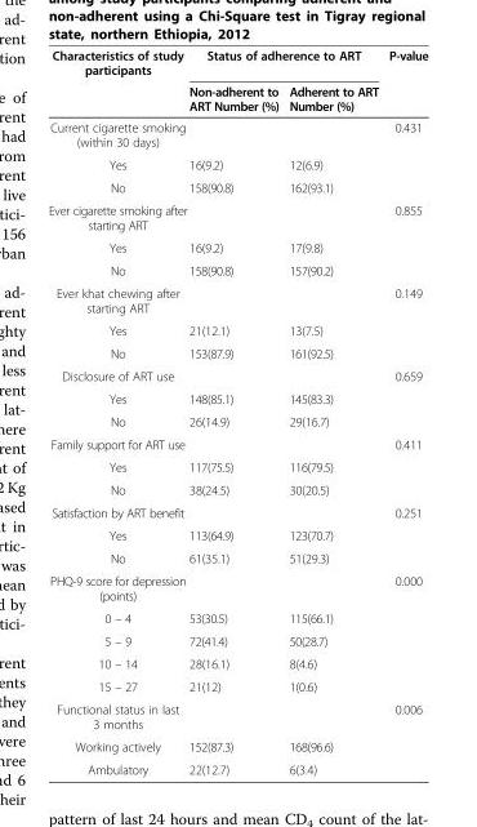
<table><thead><tr><td rowspan="2">Characteristics of study participants</td><td colspan="2">Status of adherence to ART</td><td rowspan="2">P-value</td></tr><tr><td>Non-adherent to ART Number (%)</td><td>Adherent to ART Number (%)</td></tr></thead><tbody><tr><td>Current cigarette smoking (within 30 days)</td><td></td><td></td><td>0.431</td></tr><tr><td>Yes</td><td>16(9.2)</td><td>12(6.9)</td><td></td></tr><tr><td>No</td><td>158(90.8)</td><td>162(93.1)</td><td></td></tr><tr><td>Ever cigarette smoking after starting ART</td><td></td><td></td><td>0.855</td></tr><tr><td>Yes</td><td>16(9.2)</td><td>17(9.8)</td><td></td></tr><tr><td>No</td><td>158(90.8)</td><td>157(90.2)</td><td></td></tr><tr><td>Ever khat chewing after starting ART</td><td></td><td></td><td>0.149</td></tr><tr><td>Yes</td><td>21(12.1)</td><td>13(7.5)</td><td></td></tr><tr><td>No</td><td>153(87.9)</td><td>161(92.5)</td><td></td></tr><tr><td>Disclosure of ART use</td><td></td><td></td><td>0.659</td></tr><tr><td>Yes</td><td>148(85.1)</td><td>145(83.3)</td><td></td></tr><tr><td>No</td><td>26(14.9)</td><td>29(16.7)</td><td></td></tr><tr><td>Family support for ART use</td><td></td><td></td><td>0.411</td></tr><tr><td>Yes</td><td>117(75.5)</td><td>116(79.5)</td><td></td></tr><tr><td>No</td><td>38(24.5)</td><td>30(20.5)</td><td></td></tr><tr><td>Satisfaction by ART benefit</td><td></td><td></td><td>0.251</td></tr><tr><td>Yes</td><td>113(64.9)</td><td>123(70.7)</td><td></td></tr><tr><td>No</td><td>61(35.1)</td><td>51(29.3)</td><td></td></tr><tr><td>PHQ-9 score for depression (points)</td><td></td><td></td><td>0.000</td></tr><tr><td>0 – 4</td><td>53(30.5)</td><td>115(66.1)</td><td></td></tr><tr><td>5 – 9</td><td>72(41.4)</td><td>50(28.7)</td><td></td></tr><tr><td>10 – 14</td><td>28(16.1)</td><td>8(4.6)</td><td></td></tr><tr><td>15 – 27</td><td>21(12)</td><td>1(0.6)</td><td></td></tr><tr><td>Functional status in last 3 months</td><td></td><td></td><td>0.006</td></tr><tr><td>Working actively</td><td>152(87.3)</td><td>168(96.6)</td><td></td></tr><tr><td>Ambulatory</td><td>22(12.7)</td><td>6(3.4)</td><td></td></tr></tbody></table>